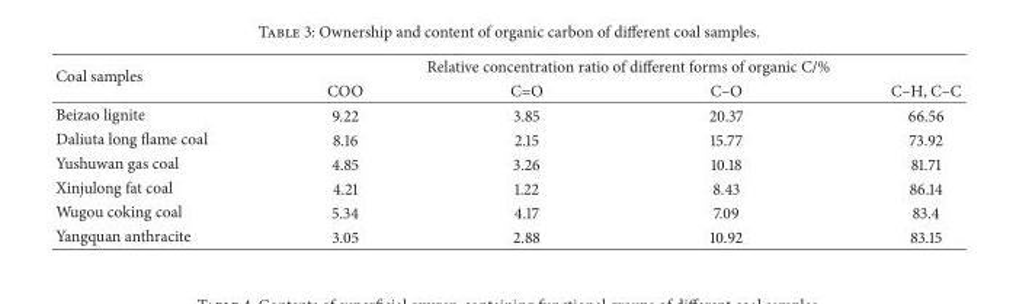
<table><thead><tr><td rowspan="2">Coal samples</td><td colspan="4">Relative concentration ratio of different forms of organic C/%</td></tr><tr><td>COO</td><td>C=O</td><td>C–O</td><td>C–H, C–C</td></tr></thead><tbody><tr><td>Beizao lignite</td><td>9.22</td><td>3.85</td><td>20.37</td><td>66.56</td></tr><tr><td>Daliuta long flame coal</td><td>8.16</td><td>2.15</td><td>15.77</td><td>73.92</td></tr><tr><td>Yushuwan gas coal</td><td>4.85</td><td>3.26</td><td>10.18</td><td>81.71</td></tr><tr><td>Xinjulong fat coal</td><td>4.21</td><td>1.22</td><td>8.43</td><td>86.14</td></tr><tr><td>Wugou coking coal</td><td>5.34</td><td>4.17</td><td>7.09</td><td>83.4</td></tr><tr><td>Yangquan anthracite</td><td>3.05</td><td>2.88</td><td>10.92</td><td>83.15</td></tr></tbody></table>